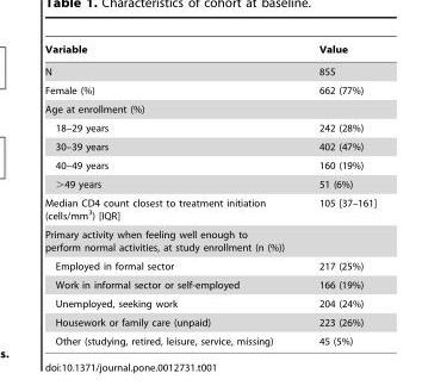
<table><thead><tr><td>Variable</td><td>Value</td></tr></thead><tbody><tr><td>N</td><td>855</td></tr><tr><td>Female (%)</td><td>662 (77%)</td></tr><tr><td colspan="2">Age at enrollment (%)</td></tr><tr><td>18–29 years</td><td>242 (28%)</td></tr><tr><td>30–39 years</td><td>402 (47%)</td></tr><tr><td>40–49 years</td><td>160 (19%)</td></tr><tr><td>&gt;49 years</td><td>51 (6%)</td></tr><tr><td>Median CD4 count closest to treatment initiation (cells/mm<sup>3</sup>) [IQR]</td><td>105 [37–161]</td></tr><tr><td colspan="2">Primary activity when feeling well enough to perform normal activities, at study enrollment (n (%))</td></tr><tr><td>Employed in formal sector</td><td>217 (25%)</td></tr><tr><td>Work in informal sector or self-employed</td><td>166 (19%)</td></tr><tr><td>Unemployed, seeking work</td><td>204 (24%)</td></tr><tr><td>Housework or family care (unpaid)</td><td>223 (26%)</td></tr><tr><td>Other (studying, retired, leisure, service, missing)</td><td>45 (5%)</td></tr></tbody></table>